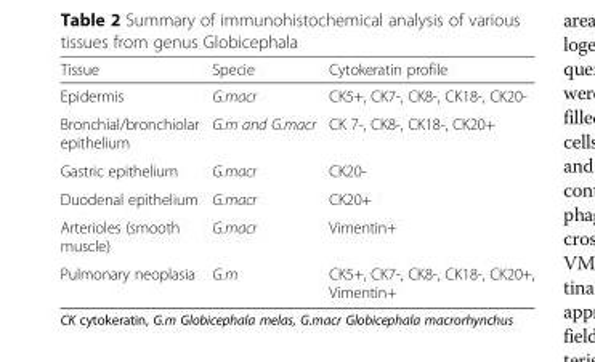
<table><thead><tr><td>Tissue</td><td>Specie</td><td>Cytokeratin profile</td></tr></thead><tbody><tr><td>Epidermis</td><td>G.macr</td><td>CK5+, CK7-, CK8-, CK18-, CK20-</td></tr><tr><td>Bronchial/bronchiolar epithelium</td><td>G.m and G.macr</td><td>CK 7-, CK8-, CK18-, CK20+</td></tr><tr><td>Gastric epithelium</td><td>G.macr</td><td>CK20-</td></tr><tr><td>Duodenal epithelium</td><td>G.macr</td><td>CK20+</td></tr><tr><td>Arterioles (smooth muscle)</td><td>G.macr</td><td>Vimentin+</td></tr><tr><td>Pulmonary neoplasia</td><td>G.m</td><td>CK5+, CK7-, CK8-, CK18-, CK20+, Vimentin+</td></tr></tbody></table>